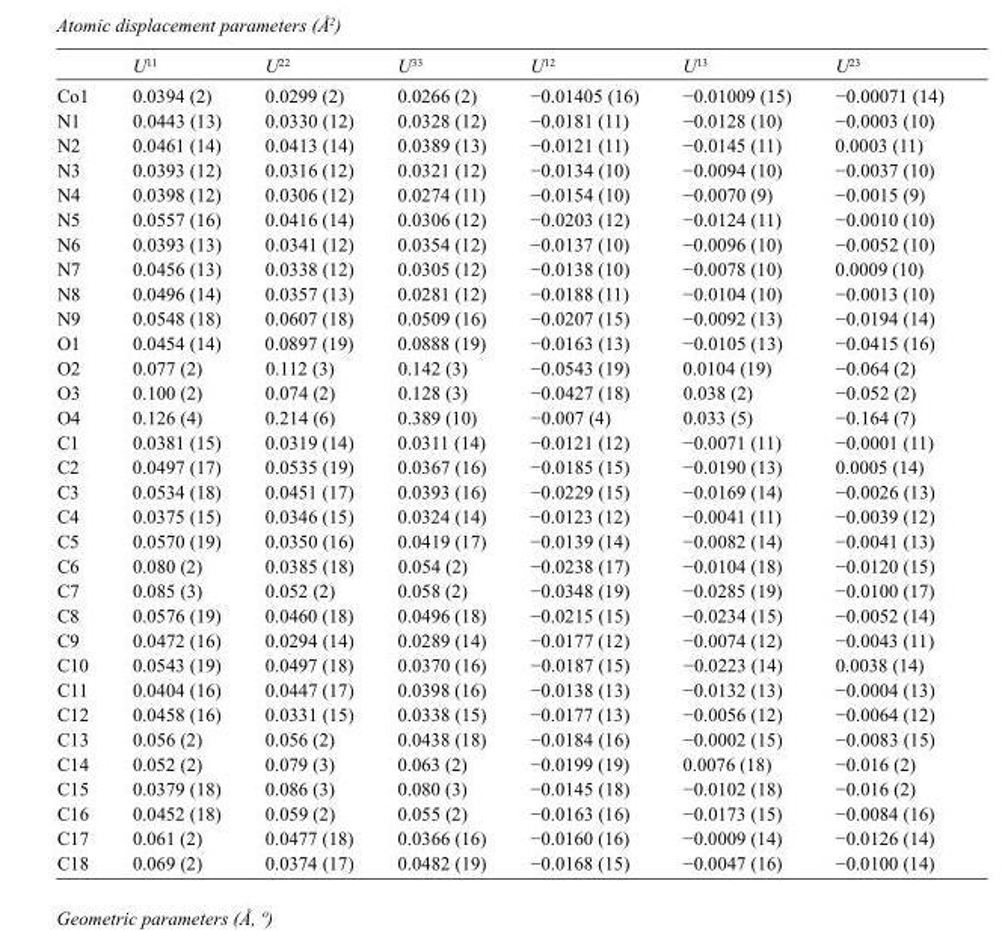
<table><thead><tr><td></td><td>U<sup>11</sup></td><td>U<sup>22</sup></td><td>U<sup>33</sup></td><td>U<sup>12</sup></td><td>U<sup>13</sup></td><td>U<sup>23</sup></td></tr></thead><tbody><tr><td>Co1</td><td>0.0394 (2)</td><td>0.0299 (2)</td><td>0.0266 (2)</td><td>−0.01405 (16)</td><td>−0.01009 (15)</td><td>−0.00071 (14)</td></tr><tr><td>N1</td><td>0.0443 (13)</td><td>0.0330 (12)</td><td>0.0328 (12)</td><td>−0.0181 (11)</td><td>−0.0128 (10)</td><td>−0.0003 (10)</td></tr><tr><td>N2</td><td>0.0461 (14)</td><td>0.0413 (14)</td><td>0.0389 (13)</td><td>−0.0121 (11)</td><td>−0.0145 (11)</td><td>0.0003 (11)</td></tr><tr><td>N3</td><td>0.0393 (12)</td><td>0.0316 (12)</td><td>0.0321 (12)</td><td>−0.0134 (10)</td><td>−0.0094 (10)</td><td>−0.0037 (10)</td></tr><tr><td>N4</td><td>0.0398 (12)</td><td>0.0306 (12)</td><td>0.0274 (11)</td><td>−0.0154 (10)</td><td>−0.0070 (9)</td><td>−0.0015 (9)</td></tr><tr><td>N5</td><td>0.0557 (16)</td><td>0.0416 (14)</td><td>0.0306 (12)</td><td>−0.0203 (12)</td><td>−0.0124 (11)</td><td>−0.0010 (10)</td></tr><tr><td>N6</td><td>0.0393 (13)</td><td>0.0341 (12)</td><td>0.0354 (12)</td><td>−0.0137 (10)</td><td>−0.0096 (10)</td><td>−0.0052 (10)</td></tr><tr><td>N7</td><td>0.0456 (13)</td><td>0.0338 (12)</td><td>0.0305 (12)</td><td>−0.0138 (10)</td><td>−0.0078 (10)</td><td>0.0009 (10)</td></tr><tr><td>N8</td><td>0.0496 (14)</td><td>0.0357 (13)</td><td>0.0281 (12)</td><td>−0.0188 (11)</td><td>−0.0104 (10)</td><td>−0.0013 (10)</td></tr><tr><td>N9</td><td>0.0548 (18)</td><td>0.0607 (18)</td><td>0.0509 (16)</td><td>−0.0207 (15)</td><td>−0.0092 (13)</td><td>−0.0194 (14)</td></tr><tr><td>O1</td><td>0.0454 (14)</td><td>0.0897 (19)</td><td>0.0888 (19)</td><td>−0.0163 (13)</td><td>−0.0105 (13)</td><td>−0.0415 (16)</td></tr><tr><td>O2</td><td>0.077 (2)</td><td>0.112 (3)</td><td>0.142 (3)</td><td>−0.0543 (19)</td><td>0.0104 (19)</td><td>−0.064 (2)</td></tr><tr><td>O3</td><td>0.100 (2)</td><td>0.074 (2)</td><td>0.128 (3)</td><td>−0.0427 (18)</td><td>0.038 (2)</td><td>−0.052 (2)</td></tr><tr><td>O4</td><td>0.126 (4)</td><td>0.214 (6)</td><td>0.389 (10)</td><td>−0.007 (4)</td><td>0.033 (5)</td><td>−0.164 (7)</td></tr><tr><td>C1</td><td>0.0381 (15)</td><td>0.0319 (14)</td><td>0.0311 (14)</td><td>−0.0121 (12)</td><td>−0.0071 (11)</td><td>−0.0001 (11)</td></tr><tr><td>C2</td><td>0.0497 (17)</td><td>0.0535 (19)</td><td>0.0367 (16)</td><td>−0.0185 (15)</td><td>−0.0190 (13)</td><td>0.0005 (14)</td></tr><tr><td>C3</td><td>0.0534 (18)</td><td>0.0451 (17)</td><td>0.0393 (16)</td><td>−0.0229 (15)</td><td>−0.0169 (14)</td><td>−0.0026 (13)</td></tr><tr><td>C4</td><td>0.0375 (15)</td><td>0.0346 (15)</td><td>0.0324 (14)</td><td>−0.0123 (12)</td><td>−0.0041 (11)</td><td>−0.0039 (12)</td></tr><tr><td>C5</td><td>0.0570 (19)</td><td>0.0350 (16)</td><td>0.0419 (17)</td><td>−0.0139 (14)</td><td>−0.0082 (14)</td><td>−0.0041 (13)</td></tr><tr><td>C6</td><td>0.080 (2)</td><td>0.0385 (18)</td><td>0.054 (2)</td><td>−0.0238 (17)</td><td>−0.0104 (18)</td><td>−0.0120 (15)</td></tr><tr><td>C7</td><td>0.085 (3)</td><td>0.052 (2)</td><td>0.058 (2)</td><td>−0.0348 (19)</td><td>−0.0285 (19)</td><td>−0.0100 (17)</td></tr><tr><td>C8</td><td>0.0576 (19)</td><td>0.0460 (18)</td><td>0.0496 (18)</td><td>−0.0215 (15)</td><td>−0.0234 (15)</td><td>−0.0052 (14)</td></tr><tr><td>C9</td><td>0.0472 (16)</td><td>0.0294 (14)</td><td>0.0289 (14)</td><td>−0.0177 (12)</td><td>−0.0074 (12)</td><td>−0.0043 (11)</td></tr><tr><td>C10</td><td>0.0543 (19)</td><td>0.0497 (18)</td><td>0.0370 (16)</td><td>−0.0187 (15)</td><td>−0.0223 (14)</td><td>0.0038 (14)</td></tr><tr><td>C11</td><td>0.0404 (16)</td><td>0.0447 (17)</td><td>0.0398 (16)</td><td>−0.0138 (13)</td><td>−0.0132 (13)</td><td>−0.0004 (13)</td></tr><tr><td>C12</td><td>0.0458 (16)</td><td>0.0331 (15)</td><td>0.0338 (15)</td><td>−0.0177 (13)</td><td>−0.0056 (12)</td><td>−0.0064 (12)</td></tr><tr><td>C13</td><td>0.056 (2)</td><td>0.056 (2)</td><td>0.0438 (18)</td><td>−0.0184 (16)</td><td>−0.0002 (15)</td><td>−0.0083 (15)</td></tr><tr><td>C14</td><td>0.052 (2)</td><td>0.079 (3)</td><td>0.063 (2)</td><td>−0.0199 (19)</td><td>0.0076 (18)</td><td>−0.016 (2)</td></tr><tr><td>C15</td><td>0.0379 (18)</td><td>0.086 (3)</td><td>0.080 (3)</td><td>−0.0145 (18)</td><td>−0.0102 (18)</td><td>−0.016 (2)</td></tr><tr><td>C16</td><td>0.0452 (18)</td><td>0.059 (2)</td><td>0.055 (2)</td><td>−0.0163 (16)</td><td>−0.0173 (15)</td><td>−0.0084 (16)</td></tr><tr><td>C17</td><td>0.061 (2)</td><td>0.0477 (18)</td><td>0.0366 (16)</td><td>−0.0160 (16)</td><td>−0.0009 (14)</td><td>−0.0126 (14)</td></tr><tr><td>C18</td><td>0.069 (2)</td><td>0.0374 (17)</td><td>0.0482 (19)</td><td>−0.0168 (15)</td><td>−0.0047 (16)</td><td>−0.0100 (14)</td></tr></tbody></table>